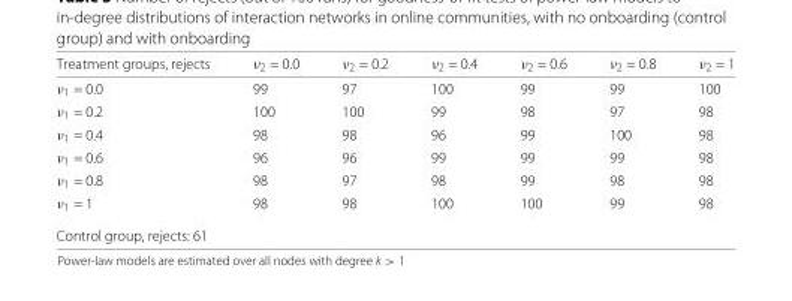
<table><thead><tr><td>Treatment groups, rejects</td><td>ν<sub>2</sub> = 0.0</td><td>ν<sub>2</sub> = 0.2</td><td>ν<sub>2</sub> = 0.4</td><td>ν<sub>2</sub> = 0.6</td><td>ν<sub>2</sub> = 0.8</td><td>ν<sub>2</sub> = 1</td></tr></thead><tbody><tr><td>ν<sub>1</sub> = 0.0</td><td>99</td><td>97</td><td>100</td><td>99</td><td>99</td><td>100</td></tr><tr><td>ν<sub>1</sub> = 0.2</td><td>100</td><td>100</td><td>99</td><td>98</td><td>97</td><td>98</td></tr><tr><td>ν<sub>1</sub> = 0.4</td><td>98</td><td>98</td><td>96</td><td>99</td><td>100</td><td>98</td></tr><tr><td>ν<sub>1</sub> = 0.6</td><td>96</td><td>96</td><td>99</td><td>99</td><td>99</td><td>98</td></tr><tr><td>ν<sub>1</sub> = 0.8</td><td>98</td><td>97</td><td>98</td><td>99</td><td>98</td><td>98</td></tr><tr><td>ν<sub>1</sub> = 1</td><td>98</td><td>98</td><td>100</td><td>100</td><td>99</td><td>98</td></tr><tr><td colspan="7">Control group, rejects: 61</td></tr></tbody></table>